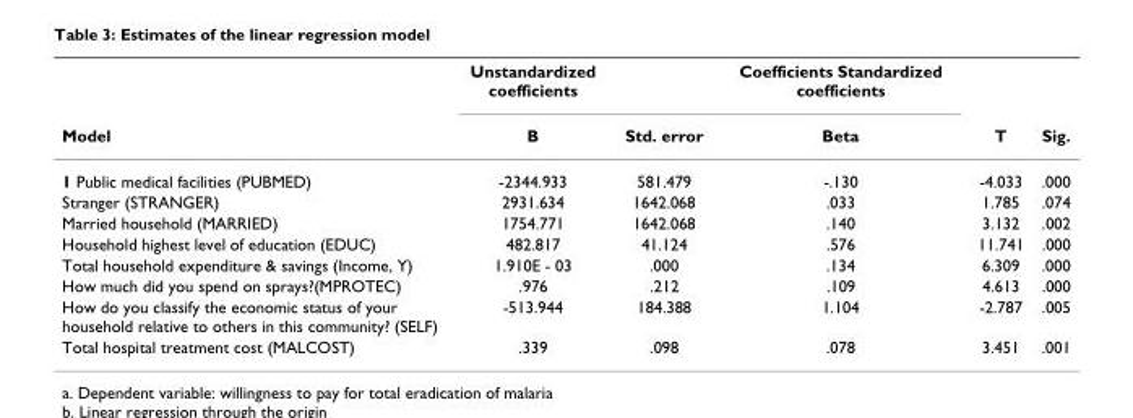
<table><thead><tr><td rowspan="2">Model</td><td rowspan="2">Unstandardized coefficients B</td><td rowspan="2">Std. error</td><td rowspan="2">Coefficients Standardized coefficients Beta</td><td rowspan="2">T</td><td rowspan="2">Sig.</td></tr><tr></tr></thead><tbody><tr><td>1 Public medical facilities (PUBMED)</td><td>-2344.933</td><td>581.479</td><td>-.130</td><td>-4.033</td><td>.000</td></tr><tr><td>Stranger (STRANGER)</td><td>2931.634</td><td>1642.068</td><td>.033</td><td>1.785</td><td>.074</td></tr><tr><td>Married household (MARRIED)</td><td>1754.771</td><td>1642.068</td><td>.140</td><td>3.132</td><td>.002</td></tr><tr><td>Household highest level of education (EDUC)</td><td>482.817</td><td>41.124</td><td>.576</td><td>11.741</td><td>.000</td></tr><tr><td>Total household expenditure &amp; savings (Income, Y)</td><td>1.910E - 03</td><td>.000</td><td>.134</td><td>6.309</td><td>.000</td></tr><tr><td>How much did you spend on sprays?(MPROTEC)</td><td>.976</td><td>.212</td><td>.109</td><td>4.613</td><td>.000</td></tr><tr><td>How do you classify the economic status of your household relative to others in this community? (SELF)</td><td>-513.944</td><td>184.388</td><td>1.104</td><td>-2.787</td><td>.005</td></tr><tr><td>Total hospital treatment cost (MALCOST)</td><td>.339</td><td>.098</td><td>.078</td><td>3.451</td><td>.001</td></tr></tbody></table>